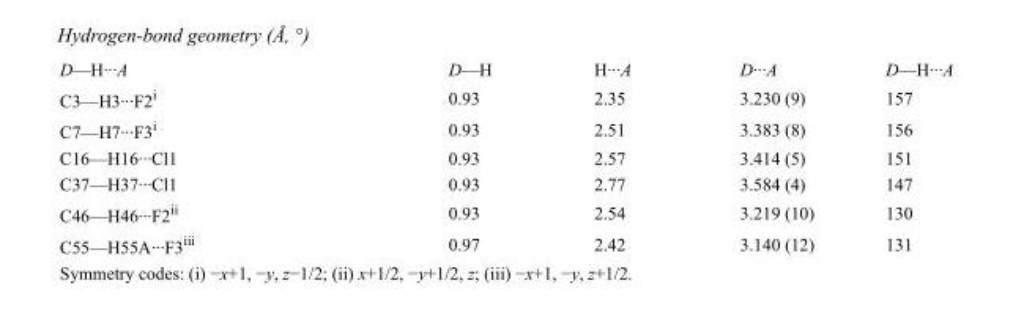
<table><tbody><tr><td>D—H···A</td><td>D—H</td><td>H···A</td><td>D···A</td><td>D—H···A</td></tr><tr><td>C3—H3···F2<sup>i</sup></td><td>0.93</td><td>2.35</td><td>3.230 (9)</td><td>157</td></tr><tr><td>C7—H7···F3<sup>i</sup></td><td>0.93</td><td>2.51</td><td>3.383 (8)</td><td>156</td></tr><tr><td>C16—H16···Cl1</td><td>0.93</td><td>2.57</td><td>3.414 (5)</td><td>151</td></tr><tr><td>C37—H37···Cl1</td><td>0.93</td><td>2.77</td><td>3.584 (4)</td><td>147</td></tr><tr><td>C46—H46···F2<sup>ii</sup></td><td>0.93</td><td>2.54</td><td>3.219 (10)</td><td>130</td></tr><tr><td>C55—H55A···F3<sup>iii</sup></td><td>0.97</td><td>2.42</td><td>3.140 (12)</td><td>131</td></tr></tbody></table>